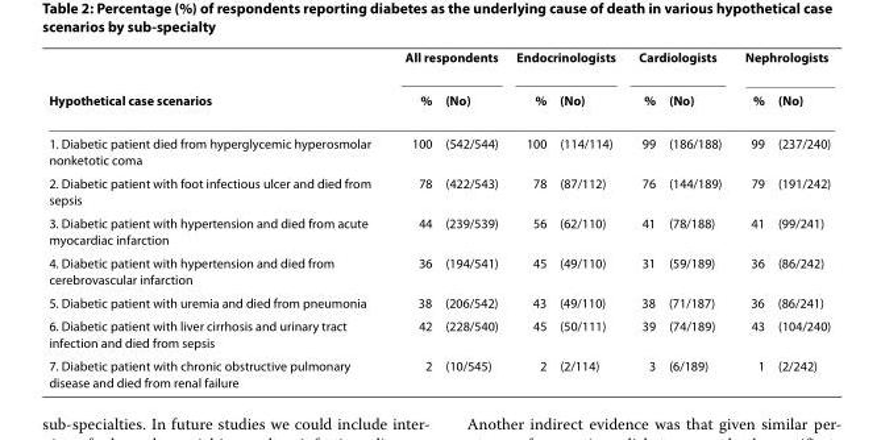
<table><thead><tr><td rowspan="2">Hypothetical case scenarios</td><td colspan="2">All respondents</td><td colspan="2">Endocrinologists</td><td colspan="2">Cardiologists</td><td colspan="2">Nephrologists</td></tr><tr><td>%</td><td>(No)</td><td>%</td><td>(No)</td><td>%</td><td>(No)</td><td>%</td><td>(No)</td></tr></thead><tbody><tr><td>1. Diabetic patient died from hyperglycemic hyperosmolar nonketotic coma</td><td>100</td><td>(542/544)</td><td>100</td><td>(114/114)</td><td>99</td><td>(186/188)</td><td>99</td><td>(237/240)</td></tr><tr><td>2. Diabetic patient with foot infectious ulcer and died from sepsis</td><td>78</td><td>(422/543)</td><td>78</td><td>(87/112)</td><td>76</td><td>(144/189)</td><td>79</td><td>(191/242)</td></tr><tr><td>3. Diabetic patient with hypertension and died from acute myocardiac infarction</td><td>44</td><td>(239/539)</td><td>56</td><td>(62/110)</td><td>41</td><td>(78/188)</td><td>41</td><td>(99/241)</td></tr><tr><td>4. Diabetic patient with hypertension and died from cerebrovascular infarction</td><td>36</td><td>(194/541)</td><td>45</td><td>(49/110)</td><td>31</td><td>(59/189)</td><td>36</td><td>(86/242)</td></tr><tr><td>5. Diabetic patient with uremia and died from pneumonia</td><td>38</td><td>(206/542)</td><td>43</td><td>(49/110)</td><td>38</td><td>(71/187)</td><td>36</td><td>(86/241)</td></tr><tr><td>6. Diabetic patient with liver cirrhosis and urinary tract infection and died from sepsis</td><td>42</td><td>(228/540)</td><td>45</td><td>(50/111)</td><td>39</td><td>(74/189)</td><td>43</td><td>(104/240)</td></tr><tr><td>7. Diabetic patient with chronic obstructive pulmonary disease and died from renal failure</td><td>2</td><td>(10/545)</td><td>2</td><td>(2/114)</td><td>3</td><td>(6/189)</td><td>1</td><td>(2/242)</td></tr></tbody></table>